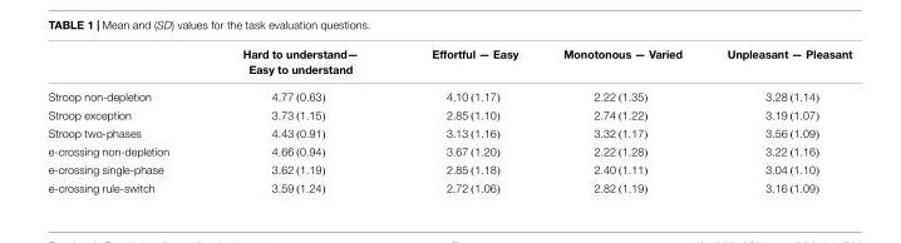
<table><thead><tr><td></td><td>Hard to understand— Easy to understand</td><td>Effortful — Easy</td><td>Monotonous — Varied</td><td>Unpleasant — Pleasant</td></tr></thead><tbody><tr><td>Stroop non-depletion</td><td>4.77 (0.63)</td><td>4.10 (1.17)</td><td>2.22 (1.35)</td><td>3.28 (1.14)</td></tr><tr><td>Stroop exception</td><td>3.73 (1.15)</td><td>2.85 (1.10)</td><td>2.74 (1.22)</td><td>3.19 (1.07)</td></tr><tr><td>Stroop two-phases</td><td>4.43 (0.91)</td><td>3.13 (1.16)</td><td>3.32 (1.17)</td><td>3.56 (1.09)</td></tr><tr><td>e-crossing non-depletion</td><td>4.66 (0.94)</td><td>3.67 (1.20)</td><td>2.22 (1.28)</td><td>3.22 (1.16)</td></tr><tr><td>e-crossing single-phase</td><td>3.62 (1.19)</td><td>2.85 (1.18)</td><td>2.40 (1.11)</td><td>3.04 (1.10)</td></tr><tr><td>e-crossing rule-switch</td><td>3.59 (1.24)</td><td>2.72 (1.06)</td><td>2.82 (1.19)</td><td>3.16 (1.09)</td></tr></tbody></table>